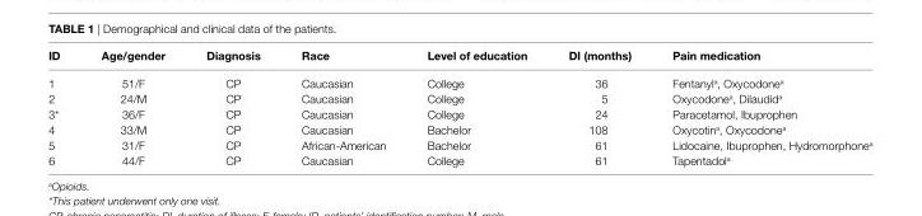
<table><thead><tr><td>iD</td><td>age/gender</td><td>Diagnosis</td><td>race</td><td>level of education</td><td>Di (months)</td><td>Pain medication</td></tr></thead><tbody><tr><td>1</td><td>51/F</td><td>CP</td><td>Caucasian</td><td>College</td><td>36</td><td>Fentanyl<sup>a</sup>, Oxycodone<sup>a</sup></td></tr><tr><td>2</td><td>24/M</td><td>CP</td><td>Caucasian</td><td>College</td><td>5</td><td>Oxycodone<sup>a</sup>, Dilaudid<sup>a</sup></td></tr><tr><td>3*</td><td>36/F</td><td>CP</td><td>Caucasian</td><td>College</td><td>24</td><td>Paracetamol, Ibuprophen</td></tr><tr><td>4</td><td>33/M</td><td>CP</td><td>Caucasian</td><td>Bachelor</td><td>108</td><td>Oxycotin<sup>a</sup>, Oxycodone<sup>a</sup></td></tr><tr><td>5</td><td>31/F</td><td>CP</td><td>African-American</td><td>Bachelor</td><td>61</td><td>Lidocaine, Ibuprophen, Hydromorphone<sup>a</sup></td></tr><tr><td>6</td><td>44/F</td><td>CP</td><td>Caucasian</td><td>College</td><td>61</td><td>Tapentadol<sup>a</sup></td></tr></tbody></table>